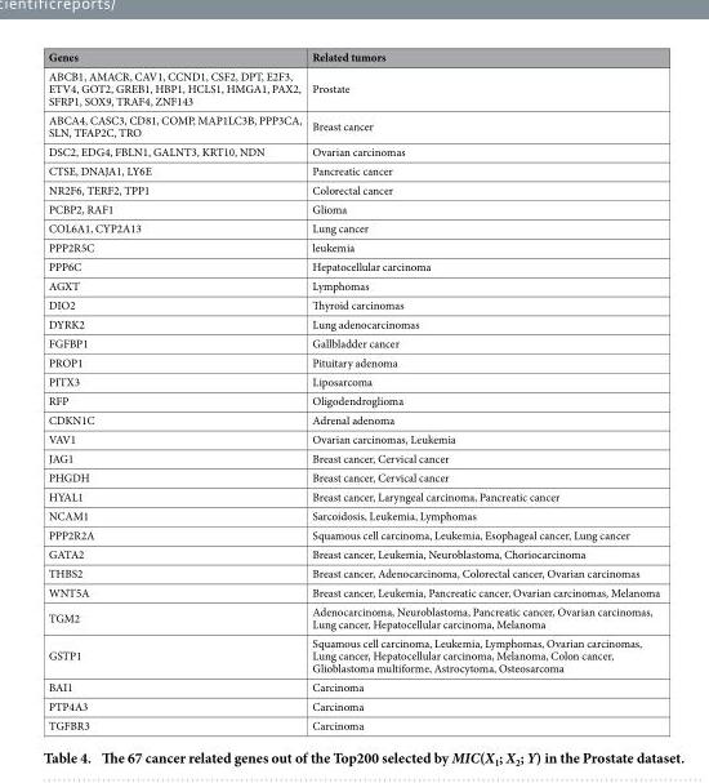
<table><thead><tr><td>Genes</td><td>Related tumors</td></tr></thead><tbody><tr><td>ABCB1, AMACR, CAV1, CCND1, CSF2, DPT, E2F3, ETV4, GOT2, GREB1, HBP1, HCLS1, HMGA1, PAX2, SFRP1, SOX9, TRAF4, ZNF143</td><td>Prostate</td></tr><tr><td>ABCA4, CASC3, CD81, COMP, MAP1LC3B, PPP3CA, SLN, TFAP2C, TRO</td><td>Breast cancer</td></tr><tr><td>DSC2, EDG4, FBLN1, GALNT3, KRT10, NDN</td><td>Ovarian carcinomas</td></tr><tr><td>CTSE, DNAJA1, LY6E</td><td>Pancreatic cancer</td></tr><tr><td>NR2F6, TERF2, TPP1</td><td>Colorectal cancer</td></tr><tr><td>PCBP2, RAF1</td><td>Glioma</td></tr><tr><td>COL6A1, CYP2A13</td><td>Lung cancer</td></tr><tr><td>PPP2R5C</td><td>leukemia</td></tr><tr><td>PPP6C</td><td>Hepatocellular carcinoma</td></tr><tr><td>AGXT</td><td>Lymphomas</td></tr><tr><td>DIO2</td><td>Thyroid carcinomas</td></tr><tr><td>DYRK2</td><td>Lung adenocarcinomas</td></tr><tr><td>FGFBP1</td><td>Gallbladder cancer</td></tr><tr><td>PROP1</td><td>Pituitary adenoma</td></tr><tr><td>PITX3</td><td>Liposarcoma</td></tr><tr><td>RFP</td><td>Oligodendroglioma</td></tr><tr><td>CDKN1C</td><td>Adrenal adenoma</td></tr><tr><td>VAV1</td><td>Ovarian carcinomas, Leukemia</td></tr><tr><td>JAG1</td><td>Breast cancer, Cervical cancer</td></tr><tr><td>PHGDH</td><td>Breast cancer, Cervical cancer</td></tr><tr><td>HYAL1</td><td>Breast cancer, Laryngeal carcinoma, Pancreatic cancer</td></tr><tr><td>NCAM1</td><td>Sarcoidosis, Leukemia, Lymphomas</td></tr><tr><td>PPP2R2A</td><td>Squamous cell carcinoma, Leukemia, Esophageal cancer, Lung cancer</td></tr><tr><td>GATA2</td><td>Breast cancer, Leukemia, Neuroblastoma, Choriocarcinoma</td></tr><tr><td>THBS2</td><td>Breast cancer, Adenocarcinoma, Colorectal cancer, Ovarian carcinomas</td></tr><tr><td>WNT5A</td><td>Breast cancer, Leukemia, Pancreatic cancer, Ovarian carcinomas, Melanoma</td></tr><tr><td>TGM2</td><td>Adenocarcinoma, Neuroblastoma, Pancreatic cancer, Ovarian carcinomas, Lung cancer, Hepatocellular carcinoma, Melanoma</td></tr><tr><td>GSTP1</td><td>Squamous cell carcinoma, Leukemia, Lymphomas, Ovarian carcinomas, Lung cancer, Hepatocellular carcinoma, Melanoma, Colon cancer, Glioblastoma multiforme, Astrocytoma, Osteosarcoma</td></tr><tr><td>BAI1</td><td>Carcinoma</td></tr><tr><td>PTP4A3</td><td>Carcinoma</td></tr><tr><td>TGFBR3</td><td>Carcinoma</td></tr></tbody></table>